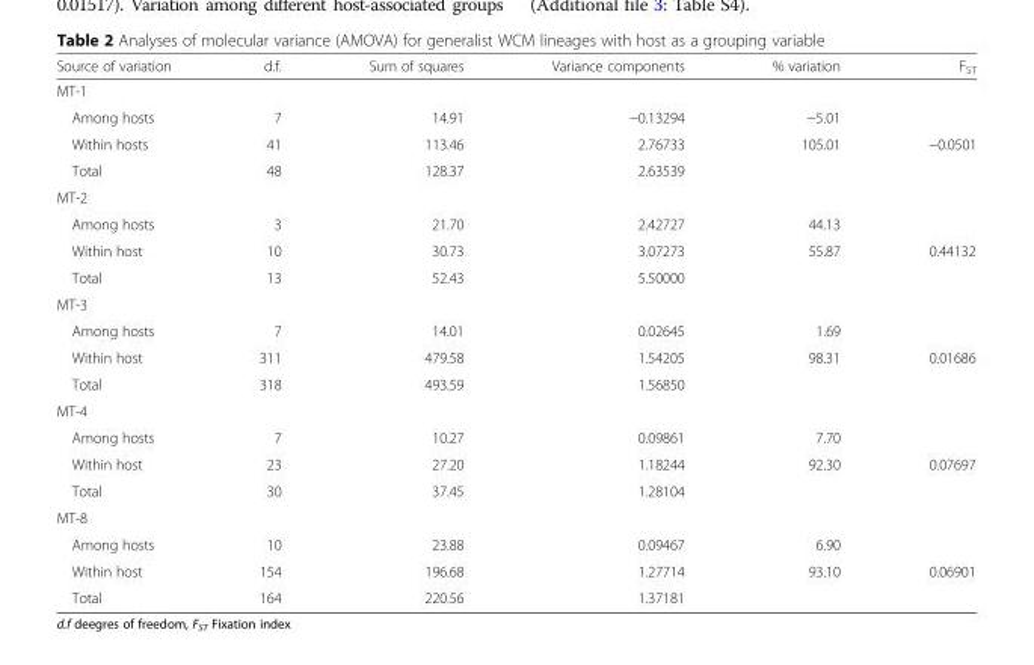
<table><thead><tr><td>Source of variation</td><td>d.f.</td><td>Sum of squares</td><td>Variance components</td><td>% variation</td><td>F<sub>ST</sub></td></tr></thead><tbody><tr><td colspan="6">MT-1</td></tr><tr><td>Among hosts</td><td>7</td><td>14.91</td><td>−0.13294</td><td>−5.01</td><td></td></tr><tr><td>Within hosts</td><td>41</td><td>113.46</td><td>2.76733</td><td>105.01</td><td>−0.0501</td></tr><tr><td>Total</td><td>48</td><td>128.37</td><td>2.63539</td><td></td><td></td></tr><tr><td colspan="6">MT-2</td></tr><tr><td>Among hosts</td><td>3</td><td>21.70</td><td>2.42727</td><td>44.13</td><td></td></tr><tr><td>Within host</td><td>10</td><td>30.73</td><td>3.07273</td><td>55.87</td><td>0.44132</td></tr><tr><td>Total</td><td>13</td><td>52.43</td><td>5.50000</td><td></td><td></td></tr><tr><td colspan="6">MT-3</td></tr><tr><td>Among hosts</td><td>7</td><td>14.01</td><td>0.02645</td><td>1.69</td><td></td></tr><tr><td>Within host</td><td>311</td><td>479.58</td><td>1.54205</td><td>98.31</td><td>0.01686</td></tr><tr><td>Total</td><td>318</td><td>493.59</td><td>1.56850</td><td></td><td></td></tr><tr><td colspan="6">MT-4</td></tr><tr><td>Among hosts</td><td>7</td><td>10.27</td><td>0.09861</td><td>7.70</td><td></td></tr><tr><td>Within host</td><td>23</td><td>27.20</td><td>1.18244</td><td>92.30</td><td>0.07697</td></tr><tr><td>Total</td><td>30</td><td>37.45</td><td>1.28104</td><td></td><td></td></tr><tr><td colspan="6">MT-8</td></tr><tr><td>Among hosts</td><td>10</td><td>23.88</td><td>0.09467</td><td>6.90</td><td></td></tr><tr><td>Within host</td><td>154</td><td>196.68</td><td>1.27714</td><td>93.10</td><td>0.06901</td></tr><tr><td>Total</td><td>164</td><td>220.56</td><td>1.37181</td><td></td><td></td></tr></tbody></table>